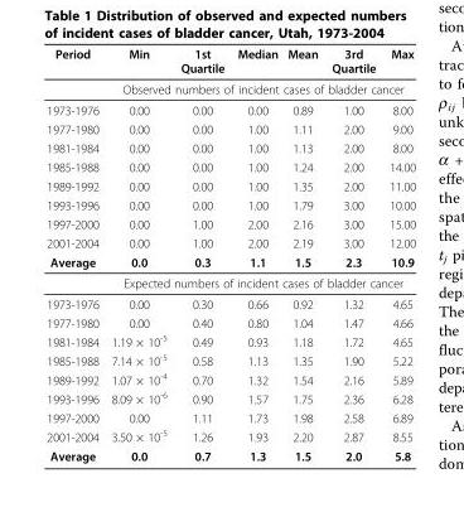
<table><thead><tr><td>Period</td><td>Min</td><td>1st Quartile</td><td>Median</td><td>Mean</td><td>3rd Quartile</td><td>Max</td></tr></thead><tbody><tr><td></td><td colspan="6">Observed numbers of incident cases of bladder cancer</td></tr><tr><td>1973-1976</td><td>0.00</td><td>0.00</td><td>0.00</td><td>0.89</td><td>1.00</td><td>8.00</td></tr><tr><td>1977-1980</td><td>0.00</td><td>0.00</td><td>1.00</td><td>1.11</td><td>2.00</td><td>9.00</td></tr><tr><td>1981-1984</td><td>0.00</td><td>0.00</td><td>1.00</td><td>1.13</td><td>2.00</td><td>8.00</td></tr><tr><td>1985-1988</td><td>0.00</td><td>0.00</td><td>1.00</td><td>1.24</td><td>2.00</td><td>14.00</td></tr><tr><td>1989-1992</td><td>0.00</td><td>0.00</td><td>1.00</td><td>1.35</td><td>2.00</td><td>11.00</td></tr><tr><td>1993-1996</td><td>0.00</td><td>0.00</td><td>1.00</td><td>1.79</td><td>3.00</td><td>10.00</td></tr><tr><td>1997-2000</td><td>0.00</td><td>1.00</td><td>2.00</td><td>2.16</td><td>3.00</td><td>15.00</td></tr><tr><td>2001-2004</td><td>0.00</td><td>1.00</td><td>2.00</td><td>2.19</td><td>3.00</td><td>12.00</td></tr><tr><td rowspan="2">Average</td><td>0.0</td><td>0.3</td><td>1.1</td><td>1.5</td><td>2.3</td><td>10.9</td></tr><tr><td colspan="6">Expected numbers of incident cases of bladder cancer</td></tr><tr><td>1973-1976</td><td>0.00</td><td>0.30</td><td>0.66</td><td>0.92</td><td>1.32</td><td>4.65</td></tr><tr><td>1977-1980</td><td>0.00</td><td>0.40</td><td>0.80</td><td>1.04</td><td>1.47</td><td>4.66</td></tr><tr><td>1981-1984</td><td>1.19 × 10<sup>-5</sup></td><td>0.49</td><td>0.93</td><td>1.18</td><td>1.72</td><td>4.65</td></tr><tr><td>1985-1988</td><td>7.14 × 10<sup>-5</sup></td><td>0.58</td><td>1.13</td><td>1.35</td><td>1.90</td><td>5.22</td></tr><tr><td>1989-1992</td><td>1.07 × 10<sup>-4</sup></td><td>0.70</td><td>1.32</td><td>1.54</td><td>2.16</td><td>5.89</td></tr><tr><td>1993-1996</td><td>8.09 × 10<sup>-6</sup></td><td>0.90</td><td>1.57</td><td>1.75</td><td>2.36</td><td>6.28</td></tr><tr><td>1997-2000</td><td>0.00</td><td>1.11</td><td>1.73</td><td>1.98</td><td>2.58</td><td>6.89</td></tr><tr><td>2001-2004</td><td>3.50 × 10<sup>-5</sup></td><td>1.26</td><td>1.93</td><td>2.20</td><td>2.87</td><td>8.55</td></tr><tr><td>Average</td><td>0.0</td><td>0.7</td><td>1.3</td><td>1.5</td><td>2.0</td><td>5.8</td></tr></tbody></table>